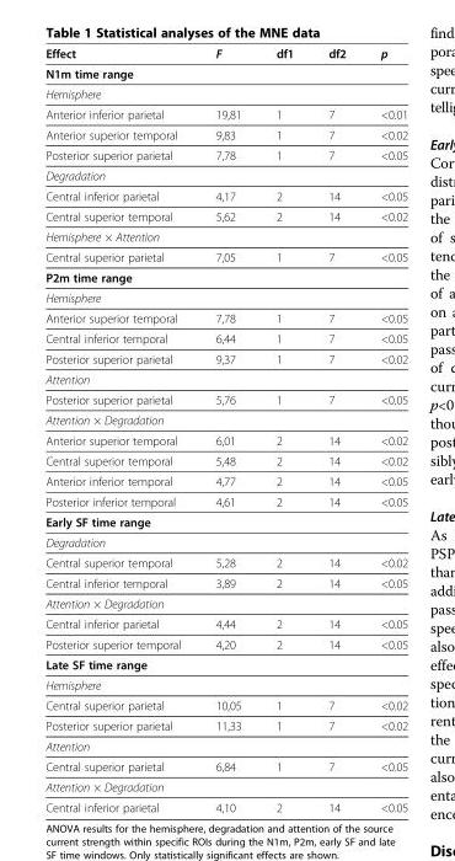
<table><thead><tr><td>Effect</td><td>F</td><td>df1</td><td>df2</td><td>p</td></tr></thead><tbody><tr><td colspan="5">N1m time range</td></tr><tr><td colspan="5">Hemisphere</td></tr><tr><td>Anterior inferior parietal</td><td>19,81</td><td>1</td><td>7</td><td>&lt;0.01</td></tr><tr><td>Anterior superior temporal</td><td>9,83</td><td>1</td><td>7</td><td>&lt;0.02</td></tr><tr><td>Posterior superior parietal</td><td>7,78</td><td>1</td><td>7</td><td>&lt;0.05</td></tr><tr><td colspan="5">Degradation</td></tr><tr><td>Central inferior parietal</td><td>4,17</td><td>2</td><td>14</td><td>&lt;0.05</td></tr><tr><td>Central superior temporal</td><td>5,62</td><td>2</td><td>14</td><td>&lt;0.02</td></tr><tr><td colspan="5">Hemisphere × Attention</td></tr><tr><td>Central superior parietal</td><td>7,05</td><td>1</td><td>7</td><td>&lt;0.05</td></tr><tr><td colspan="5">P2m time range</td></tr><tr><td colspan="5">Hemisphere</td></tr><tr><td>Anterior superior temporal</td><td>7,78</td><td>1</td><td>7</td><td>&lt;0.05</td></tr><tr><td>Central inferior temporal</td><td>6,44</td><td>1</td><td>7</td><td>&lt;0.05</td></tr><tr><td>Posterior superior parietal</td><td>9,37</td><td>1</td><td>7</td><td>&lt;0.02</td></tr><tr><td colspan="5">Attention</td></tr><tr><td>Posterior superior parietal</td><td>5,76</td><td>1</td><td>7</td><td>&lt;0.05</td></tr><tr><td colspan="5">Attention × Degradation</td></tr><tr><td>Anterior superior temporal</td><td>6,01</td><td>2</td><td>14</td><td>&lt;0.02</td></tr><tr><td>Central superior temporal</td><td>5,48</td><td>2</td><td>14</td><td>&lt;0.02</td></tr><tr><td>Anterior inferior temporal</td><td>4,77</td><td>2</td><td>14</td><td>&lt;0.05</td></tr><tr><td>Posterior inferior temporal</td><td>4,61</td><td>2</td><td>14</td><td>&lt;0.05</td></tr><tr><td colspan="5">Early SF time range</td></tr><tr><td colspan="5">Degradation</td></tr><tr><td>Central superior temporal</td><td>5,28</td><td>2</td><td>14</td><td>&lt;0.02</td></tr><tr><td>Central inferior temporal</td><td>3,89</td><td>2</td><td>14</td><td>&lt;0.05</td></tr><tr><td colspan="5">Attention × Degradation</td></tr><tr><td>Central inferior parietal</td><td>4,44</td><td>2</td><td>14</td><td>&lt;0.05</td></tr><tr><td>Posterior superior temporal</td><td>4,20</td><td>2</td><td>14</td><td>&lt;0.05</td></tr><tr><td colspan="5">Late SF time range</td></tr><tr><td colspan="5">Hemisphere</td></tr><tr><td>Central superior parietal</td><td>10,05</td><td>1</td><td>7</td><td>&lt;0.02</td></tr><tr><td>Posterior superior parietal</td><td>11,33</td><td>1</td><td>7</td><td>&lt;0.02</td></tr><tr><td colspan="5">Attention</td></tr><tr><td>Central superior parietal</td><td>6,84</td><td>1</td><td>7</td><td>&lt;0.05</td></tr><tr><td colspan="5">Attention × Degradation</td></tr><tr><td>Central inferior parietal</td><td>4,10</td><td>2</td><td>14</td><td>&lt;0.05</td></tr></tbody></table>